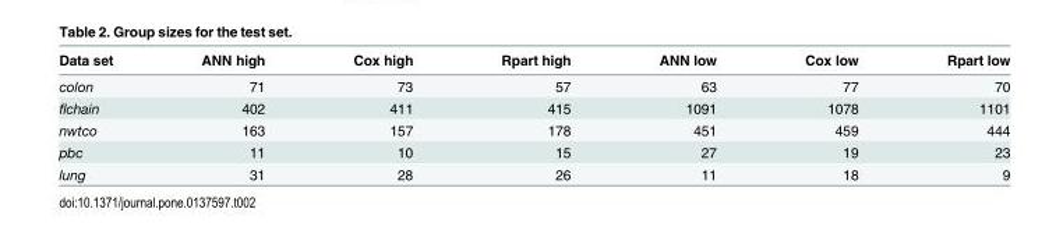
<table><thead><tr><td>Data set</td><td>ANN high</td><td>Cox high</td><td>Rpart high</td><td>ANN low</td><td>Cox low</td><td>Rpart low</td></tr></thead><tbody><tr><td>colon</td><td>71</td><td>73</td><td>57</td><td>63</td><td>77</td><td>70</td></tr><tr><td>flchain</td><td>402</td><td>411</td><td>415</td><td>1091</td><td>1078</td><td>1101</td></tr><tr><td>nwtco</td><td>163</td><td>157</td><td>178</td><td>451</td><td>459</td><td>444</td></tr><tr><td>pbc</td><td>11</td><td>10</td><td>15</td><td>27</td><td>19</td><td>23</td></tr><tr><td>lung</td><td>31</td><td>28</td><td>26</td><td>11</td><td>18</td><td>9</td></tr></tbody></table>